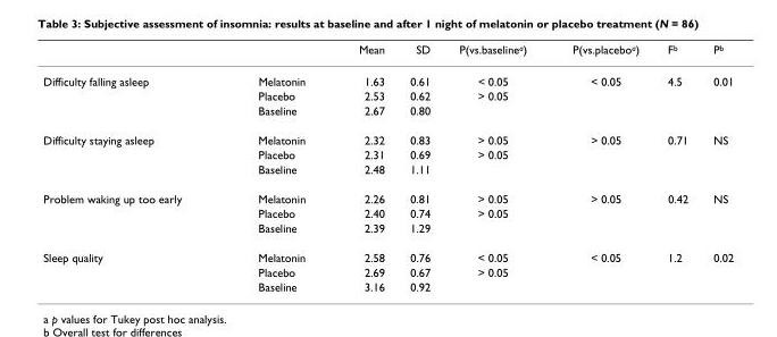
<table><thead><tr><td></td><td></td><td>Mean</td><td>SD</td><td>P(vs.baseline<sup>a</sup>)</td><td>P(vs.placebo<sup>a</sup>)</td><td>F<sup>b</sup></td><td>P<sup>b</sup></td></tr></thead><tbody><tr><td rowspan="3">Difficulty falling asleep</td><td>Melatonin</td><td>1.63</td><td>0.61</td><td>&lt; 0.05</td><td>&lt; 0.05</td><td>4.5</td><td>0.01</td></tr><tr><td>Placebo</td><td>2.53</td><td>0.62</td><td>&gt; 0.05</td><td></td><td></td><td></td></tr><tr><td>Baseline</td><td>2.67</td><td>0.80</td><td></td><td></td><td></td><td></td></tr><tr><td rowspan="3">Difficulty staying asleep</td><td>Melatonin</td><td>2.32</td><td>0.83</td><td>&gt; 0.05</td><td>&gt; 0.05</td><td>0.71</td><td>NS</td></tr><tr><td>Placebo</td><td>2.31</td><td>0.69</td><td>&gt; 0.05</td><td></td><td></td><td></td></tr><tr><td>Baseline</td><td>2.48</td><td>1.11</td><td></td><td></td><td></td><td></td></tr><tr><td rowspan="3">Problem waking up too early</td><td>Melatonin</td><td>2.26</td><td>0.81</td><td>&gt; 0.05</td><td>&gt; 0.05</td><td>0.42</td><td>NS</td></tr><tr><td>Placebo</td><td>2.40</td><td>0.74</td><td>&gt; 0.05</td><td></td><td></td><td></td></tr><tr><td>Baseline</td><td>2.39</td><td>1.29</td><td></td><td></td><td></td><td></td></tr><tr><td rowspan="3">Sleep quality</td><td>Melatonin</td><td>2.58</td><td>0.76</td><td>&lt; 0.05</td><td>&lt; 0.05</td><td>1.2</td><td>0.02</td></tr><tr><td>Placebo</td><td>2.69</td><td>0.67</td><td>&gt; 0.05</td><td></td><td></td><td></td></tr><tr><td>Baseline</td><td>3.16</td><td>0.92</td><td></td><td></td><td></td><td></td></tr></tbody></table>